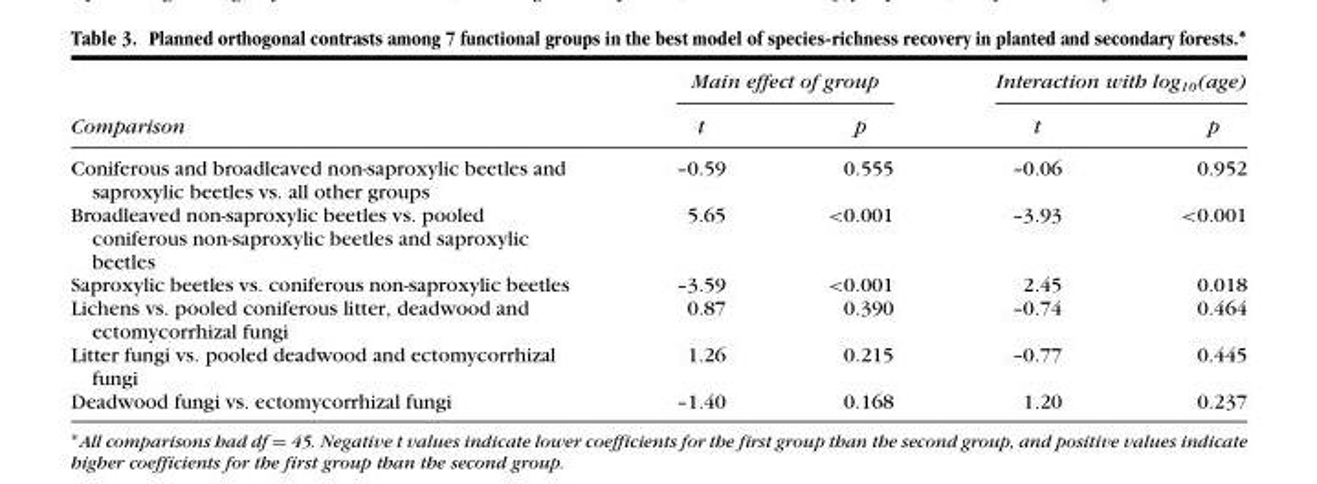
<table><thead><tr><td rowspan="2">Comparison</td><td colspan="2">Main effect of group</td><td colspan="2">Interaction with log<sub>10</sub>(age)</td></tr><tr><td>t</td><td>p</td><td>t</td><td>p</td></tr></thead><tbody><tr><td>Coniferous and broadleaved non-saproxylic beetles and saproxylic beetles vs. all other groups</td><td>–0.59</td><td>0.555</td><td>–0.06</td><td>0.952</td></tr><tr><td>Broadleaved non-saproxylic beetles vs. pooled coniferous non-saproxylic beetles and saproxylic beetles</td><td>5.65</td><td>&lt;0.001</td><td>–3.93</td><td>&lt;0.001</td></tr><tr><td>Saproxylic beetles vs. coniferous non-saproxylic beetles</td><td>–3.59</td><td>&lt;0.001</td><td>2.45</td><td>0.018</td></tr><tr><td>Lichens vs. pooled coniferous litter, deadwood and ectomycorrhizal fungi</td><td>0.87</td><td>0.390</td><td>–0.74</td><td>0.464</td></tr><tr><td>Litter fungi vs. pooled deadwood and ectomycorrhizal fungi</td><td>1.26</td><td>0.215</td><td>–0.77</td><td>0.445</td></tr><tr><td>Deadwood fungi vs. ectomycorrhizal fungi</td><td>–1.40</td><td>0.168</td><td>1.20</td><td>0.237</td></tr></tbody></table>